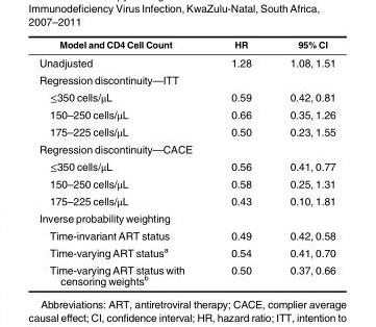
<table><thead><tr><td>Model and CD4 Cell Count</td><td>HR</td><td>95% CI</td></tr></thead><tbody><tr><td>Unadjusted</td><td>1.28</td><td>1.08, 1.51</td></tr><tr><td colspan="3">Regression discontinuity—ITT</td></tr><tr><td>≤350 cells/μL</td><td>0.59</td><td>0.42, 0.81</td></tr><tr><td>150–250 cells/μL</td><td>0.66</td><td>0.35, 1.26</td></tr><tr><td>175–225 cells/μL</td><td>0.50</td><td>0.23, 1.55</td></tr><tr><td colspan="3">Regression discontinuity—CACE</td></tr><tr><td>≤350 cells/μL</td><td>0.56</td><td>0.41, 0.77</td></tr><tr><td>150–250 cells/μL</td><td>0.58</td><td>0.25, 1.31</td></tr><tr><td>175–225 cells/μL</td><td>0.43</td><td>0.10, 1.81</td></tr><tr><td colspan="3">Inverse probability weighting</td></tr><tr><td>Time-invariant ART status</td><td>0.49</td><td>0.42, 0.58</td></tr><tr><td>Time-varying ART status<sup>a</sup></td><td>0.54</td><td>0.41, 0.70</td></tr><tr><td>Time-varying ART status with censoring weights<sup>b</sup></td><td>0.50</td><td>0.37, 0.66</td></tr></tbody></table>